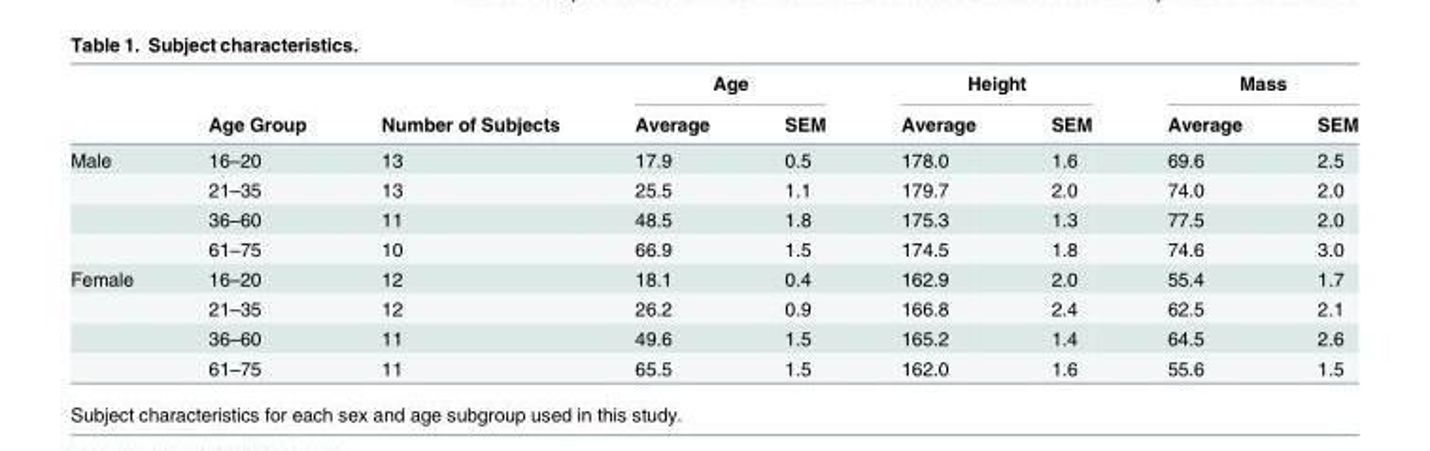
<table><thead><tr><td rowspan="2"></td><td rowspan="2">Age Group</td><td rowspan="2">Number of Subjects</td><td colspan="2">Age</td><td colspan="2">Height</td><td colspan="2">Mass</td></tr><tr><td>Average</td><td>SEM</td><td>Average</td><td>SEM</td><td>Average</td><td>SEM</td></tr></thead><tbody><tr><td rowspan="4">Male</td><td>16–20</td><td>13</td><td>17.9</td><td>0.5</td><td>178.0</td><td>1.6</td><td>69.6</td><td>2.5</td></tr><tr><td>21–35</td><td>13</td><td>25.5</td><td>1.1</td><td>179.7</td><td>2.0</td><td>74.0</td><td>2.0</td></tr><tr><td>36–60</td><td>11</td><td>48.5</td><td>1.8</td><td>175.3</td><td>1.3</td><td>77.5</td><td>2.0</td></tr><tr><td>61–75</td><td>10</td><td>66.9</td><td>1.5</td><td>174.5</td><td>1.8</td><td>74.6</td><td>3.0</td></tr><tr><td rowspan="4">Female</td><td>16–20</td><td>12</td><td>18.1</td><td>0.4</td><td>162.9</td><td>2.0</td><td>55.4</td><td>1.7</td></tr><tr><td>21–35</td><td>12</td><td>26.2</td><td>0.9</td><td>166.8</td><td>2.4</td><td>62.5</td><td>2.1</td></tr><tr><td>36–60</td><td>11</td><td>49.6</td><td>1.5</td><td>165.2</td><td>1.4</td><td>64.5</td><td>2.6</td></tr><tr><td>61–75</td><td>11</td><td>65.5</td><td>1.5</td><td>162.0</td><td>1.6</td><td>55.6</td><td>1.5</td></tr></tbody></table>